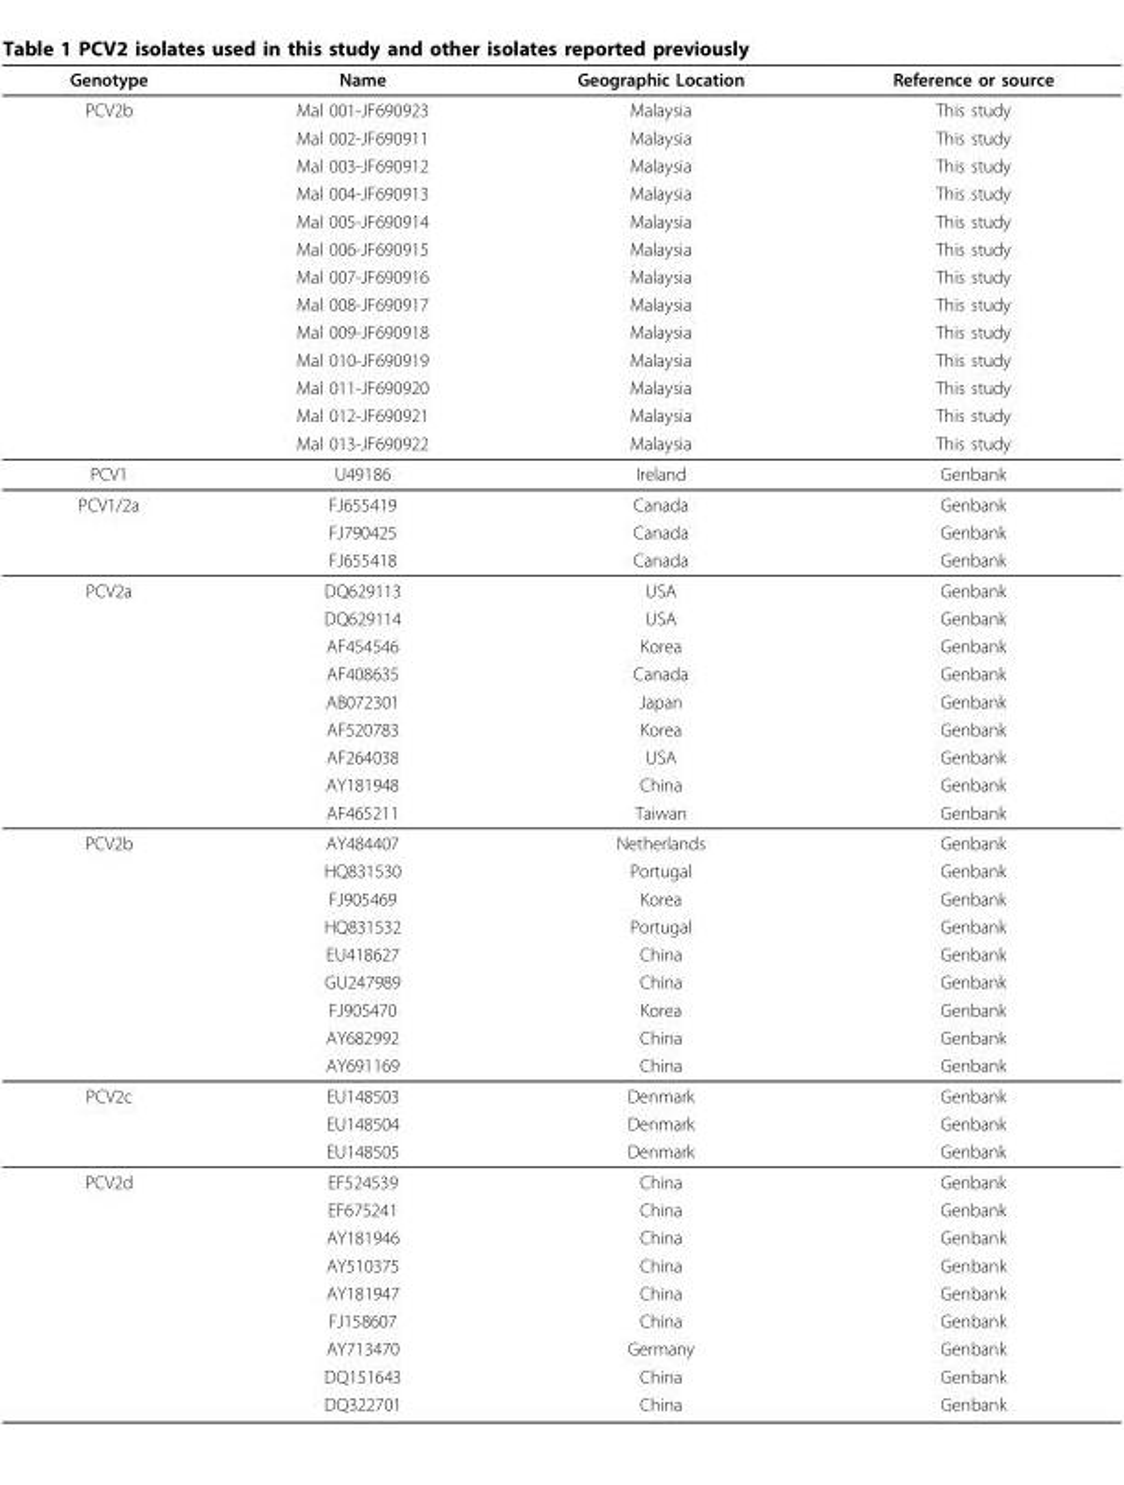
<table><thead><tr><td>Genotype</td><td>Name</td><td>Geographic Location</td><td>Reference or source</td></tr></thead><tbody><tr><td rowspan="13">PCV2b</td><td>Mal 001-JF690923</td><td>Malaysia</td><td>This study</td></tr><tr><td>Mal 002-JF690911</td><td>Malaysia</td><td>This study</td></tr><tr><td>Mal 003-JF690912</td><td>Malaysia</td><td>This study</td></tr><tr><td>Mal 004-JF690913</td><td>Malaysia</td><td>This study</td></tr><tr><td>Mal 005-JF690914</td><td>Malaysia</td><td>This study</td></tr><tr><td>Mal 006-JF690915</td><td>Malaysia</td><td>This study</td></tr><tr><td>Mal 007-JF690916</td><td>Malaysia</td><td>This study</td></tr><tr><td>Mal 008-JF690917</td><td>Malaysia</td><td>This study</td></tr><tr><td>Mal 009-JF690918</td><td>Malaysia</td><td>This study</td></tr><tr><td>Mal 010-JF690919</td><td>Malaysia</td><td>This study</td></tr><tr><td>Mal 011-JF690920</td><td>Malaysia</td><td>This study</td></tr><tr><td>Mal 012-JF690921</td><td>Malaysia</td><td>This study</td></tr><tr><td>Mal 013-JF690922</td><td>Malaysia</td><td>This study</td></tr><tr><td>PCV1</td><td>U49186</td><td>Ireland</td><td>Genbank</td></tr><tr><td rowspan="3">PCV1/2a</td><td>FJ655419</td><td>Canada</td><td>Genbank</td></tr><tr><td>FJ790425</td><td>Canada</td><td>Genbank</td></tr><tr><td>FJ655418</td><td>Canada</td><td>Genbank</td></tr><tr><td rowspan="9">PCV2a</td><td>DQ629113</td><td>USA</td><td>Genbank</td></tr><tr><td>DQ629114</td><td>USA</td><td>Genbank</td></tr><tr><td>AF454546</td><td>Korea</td><td>Genbank</td></tr><tr><td>AF408635</td><td>Canada</td><td>Genbank</td></tr><tr><td>AB072301</td><td>Japan</td><td>Genbank</td></tr><tr><td>AF520783</td><td>Korea</td><td>Genbank</td></tr><tr><td>AF264038</td><td>USA</td><td>Genbank</td></tr><tr><td>AY181948</td><td>China</td><td>Genbank</td></tr><tr><td>AF465211</td><td>Taiwan</td><td>Genbank</td></tr><tr><td rowspan="9">PCV2b</td><td>AY484407</td><td>Netherlands</td><td>Genbank</td></tr><tr><td>HQ831530</td><td>Portugal</td><td>Genbank</td></tr><tr><td>FJ905469</td><td>Korea</td><td>Genbank</td></tr><tr><td>HQ831532</td><td>Portugal</td><td>Genbank</td></tr><tr><td>EU418627</td><td>China</td><td>Genbank</td></tr><tr><td>GU247989</td><td>China</td><td>Genbank</td></tr><tr><td>FJ905470</td><td>Korea</td><td>Genbank</td></tr><tr><td>AY682992</td><td>China</td><td>Genbank</td></tr><tr><td>AY691169</td><td>China</td><td>Genbank</td></tr><tr><td rowspan="3">PCV2c</td><td>EU148503</td><td>Denmark</td><td>Genbank</td></tr><tr><td>EU148504</td><td>Denmark</td><td>Genbank</td></tr><tr><td>EU148505</td><td>Denmark</td><td>Genbank</td></tr><tr><td rowspan="9">PCV2d</td><td>EF524539</td><td>China</td><td>Genbank</td></tr><tr><td>EF675241</td><td>China</td><td>Genbank</td></tr><tr><td>AY181946</td><td>China</td><td>Genbank</td></tr><tr><td>AY510375</td><td>China</td><td>Genbank</td></tr><tr><td>AY181947</td><td>China</td><td>Genbank</td></tr><tr><td>FJ158607</td><td>China</td><td>Genbank</td></tr><tr><td>AY713470</td><td>Germany</td><td>Genbank</td></tr><tr><td>DQ151643</td><td>China</td><td>Genbank</td></tr><tr><td>DQ322701</td><td>China</td><td>Genbank</td></tr></tbody></table>